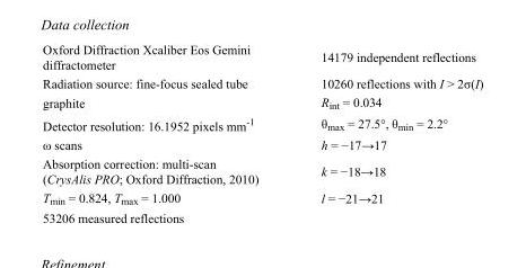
<table><tbody><tr><td>Oxford Diffraction Xcaliber Eos Gemini diffractometer</td><td>14179 independent reflections</td></tr><tr><td>Radiation source: fine-focus sealed tube</td><td>10260 reflections with I &gt; 2σ(I)</td></tr><tr><td>graphite</td><td>R<sub>int</sub> = 0.034</td></tr><tr><td>Detector resolution: 16.1952 pixels mm<sup>-1</sup></td><td>θ<sub>max</sub> = 27.5°, θ<sub>min</sub> = 2.2°</td></tr><tr><td>ω scans</td><td>h = −17→17</td></tr><tr><td>Absorption correction: multi-scan (CrysAlis PRO; Oxford Diffraction, 2010)</td><td>k = −18→18</td></tr><tr><td>T<sub>min</sub> = 0.824, T<sub>max</sub> = 1.000</td><td>l = −21→21</td></tr><tr><td>53206 measured reflections</td><td></td></tr></tbody></table>